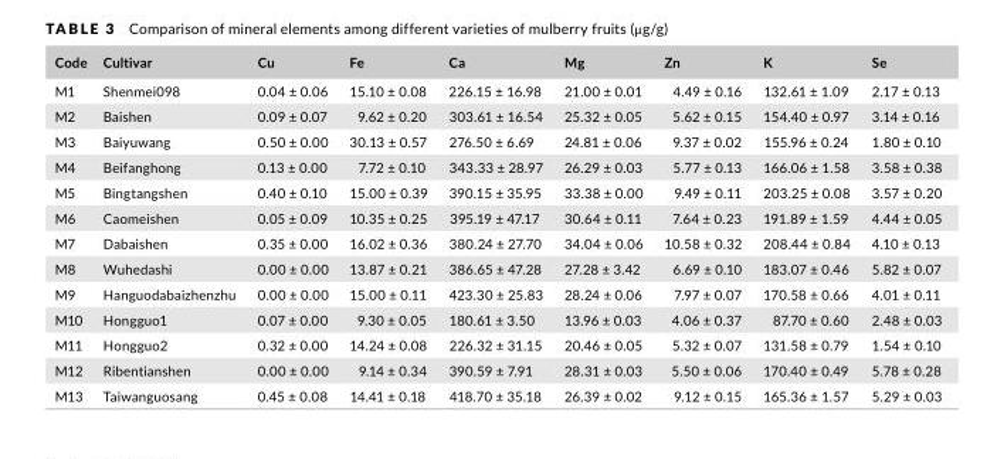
<table><thead><tr><td>Code</td><td>Cultivar</td><td>Cu</td><td>Fe</td><td>Ca</td><td>Mg</td><td>Zn</td><td>K</td><td>Se</td></tr></thead><tbody><tr><td>M1</td><td>Shenmei098</td><td>0.04 ± 0.06</td><td>15.10 ± 0.08</td><td>226.15 ± 16.98</td><td>21.00 ± 0.01</td><td>4.49 ± 0.16</td><td>132.61 ± 1.09</td><td>2.17 ± 0.13</td></tr><tr><td>M2</td><td>Baishen</td><td>0.09 ± 0.07</td><td>9.62 ± 0.20</td><td>303.61 ± 16.54</td><td>25.32 ± 0.05</td><td>5.62 ± 0.15</td><td>154.40 ± 0.97</td><td>3.14 ± 0.16</td></tr><tr><td>M3</td><td>Baiyuwang</td><td>0.50 ± 0.00</td><td>30.13 ± 0.57</td><td>276.50 ± 6.69</td><td>24.81 ± 0.06</td><td>9.37 ± 0.02</td><td>155.96 ± 0.24</td><td>1.80 ± 0.10</td></tr><tr><td>M4</td><td>Beifanghong</td><td>0.13 ± 0.00</td><td>7.72 ± 0.10</td><td>343.33 ± 28.97</td><td>26.29 ± 0.03</td><td>5.77 ± 0.13</td><td>166.06 ± 1.58</td><td>3.58 ± 0.38</td></tr><tr><td>M5</td><td>Bingtangshen</td><td>0.40 ± 0.10</td><td>15.00 ± 0.39</td><td>390.15 ± 35.95</td><td>33.38 ± 0.00</td><td>9.49 ± 0.11</td><td>203.25 ± 0.08</td><td>3.57 ± 0.20</td></tr><tr><td>M6</td><td>Caomeishen</td><td>0.05 ± 0.09</td><td>10.35 ± 0.25</td><td>395.19 ± 47.17</td><td>30.64 ± 0.11</td><td>7.64 ± 0.23</td><td>191.89 ± 1.59</td><td>4.44 ± 0.05</td></tr><tr><td>M7</td><td>Dabaishen</td><td>0.35 ± 0.00</td><td>16.02 ± 0.36</td><td>380.24 ± 27.70</td><td>34.04 ± 0.06</td><td>10.58 ± 0.32</td><td>208.44 ± 0.84</td><td>4.10 ± 0.13</td></tr><tr><td>M8</td><td>Wuhedashi</td><td>0.00 ± 0.00</td><td>13.87 ± 0.21</td><td>386.65 ± 47.28</td><td>27.28 ± 3.42</td><td>6.69 ± 0.10</td><td>183.07 ± 0.46</td><td>5.82 ± 0.07</td></tr><tr><td>M9</td><td>Hanguodabaizhenzhu</td><td>0.00 ± 0.00</td><td>15.00 ± 0.11</td><td>423.30 ± 25.83</td><td>28.24 ± 0.06</td><td>7.97 ± 0.07</td><td>170.58 ± 0.66</td><td>4.01 ± 0.11</td></tr><tr><td>M10</td><td>Hongguo1</td><td>0.07 ± 0.00</td><td>9.30 ± 0.05</td><td>180.61 ± 3.50</td><td>13.96 ± 0.03</td><td>4.06 ± 0.37</td><td>87.70 ± 0.60</td><td>2.48 ± 0.03</td></tr><tr><td>M11</td><td>Hongguo2</td><td>0.32 ± 0.00</td><td>14.24 ± 0.08</td><td>226.32 ± 31.15</td><td>20.46 ± 0.05</td><td>5.32 ± 0.07</td><td>131.58 ± 0.79</td><td>1.54 ± 0.10</td></tr><tr><td>M12</td><td>Ribentianshen</td><td>0.00 ± 0.00</td><td>9.14 ± 0.34</td><td>390.59 ± 7.91</td><td>28.31 ± 0.03</td><td>5.50 ± 0.06</td><td>170.40 ± 0.49</td><td>5.78 ± 0.28</td></tr><tr><td>M13</td><td>Taiwanguosang</td><td>0.45 ± 0.08</td><td>14.41 ± 0.18</td><td>418.70 ± 35.18</td><td>26.39 ± 0.02</td><td>9.12 ± 0.15</td><td>165.36 ± 1.57</td><td>5.29 ± 0.03</td></tr></tbody></table>